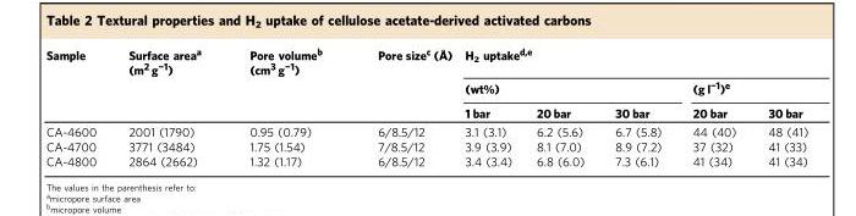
<table><thead><tr><td rowspan="3">Sample</td><td rowspan="3">Surface area<sup>a</sup> (m<sup>2</sup> g<sup>−1</sup>)</td><td rowspan="3">Pore volume<sup>b</sup> (cm<sup>3</sup> g<sup>−1</sup>)</td><td rowspan="3">Pore size<sup>c</sup> (Å)</td><td colspan="5">H<sub>2</sub> uptake<sup>d,e</sup></td></tr><tr><td colspan="3">(wt%)</td><td colspan="2">(g l<sup>−1</sup>)<sup>e</sup></td></tr><tr><td>1 bar</td><td>20 bar</td><td>30 bar</td><td>20 bar</td><td>30 bar</td></tr></thead><tbody><tr><td>CA-4600</td><td>2001 (1790)</td><td>0.95 (0.79)</td><td>6/8.5/12</td><td>3.1 (3.1)</td><td>6.2 (5.6)</td><td>6.7 (5.8)</td><td>44 (40)</td><td>48 (41)</td></tr><tr><td>CA-4700</td><td>3771 (3484)</td><td>1.75 (1.54)</td><td>7/8.5/12</td><td>3.9 (3.9)</td><td>8.1 (7.0)</td><td>8.9 (7.2)</td><td>37 (32)</td><td>41 (33)</td></tr><tr><td>CA-4800</td><td>2864 (2662)</td><td>1.32 (1.17)</td><td>6/8.5/12</td><td>3.4 (3.4)</td><td>6.8 (6.0)</td><td>7.3 (6.1)</td><td>41 (34)</td><td>41 (34)</td></tr></tbody></table>